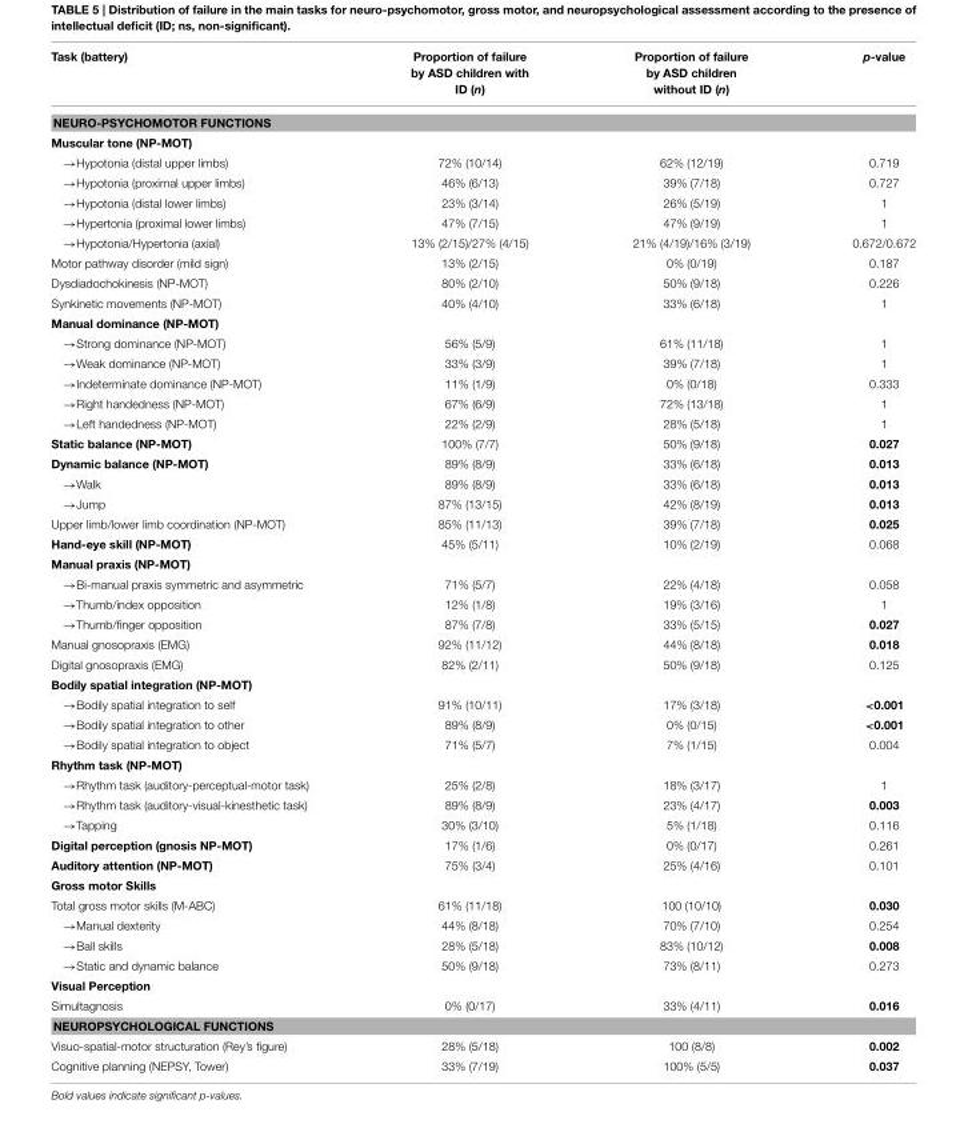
<table><thead><tr><td>Task (battery)</td><td>Proportion of failure by ASD children with ID (n)</td><td>Proportion of failure by ASD children without ID (n)</td><td>p-value</td></tr></thead><tbody><tr><td colspan="4">NEURO-PSYCHOMOTOR FUNCTIONS</td></tr><tr><td colspan="4">Muscular tone (NP-MOT)</td></tr><tr><td>→Hypotonia (distal upper limbs)</td><td>72% (10/14)</td><td>62% (12/19)</td><td>0.719</td></tr><tr><td>→Hypotonia (proximal upper limbs)</td><td>46% (6/13)</td><td>39% (7/18)</td><td>0.727</td></tr><tr><td>→Hypotonia (distal lower limbs)</td><td>23% (3/14)</td><td>26% (5/19)</td><td>1</td></tr><tr><td>→Hypertonia (proximal lower limbs)</td><td>47% (7/15)</td><td>47% (9/19)</td><td>1</td></tr><tr><td>→Hypotonia/Hypertonia (axial)</td><td>13% (2/15)/27% (4/15)</td><td>21% (4/19)/16% (3/19)</td><td>0.672/0.672</td></tr><tr><td>Motor pathway disorder (mild sign)</td><td>13% (2/15)</td><td>0% (0/19)</td><td>0.187</td></tr><tr><td>Dysdiadochokinesis (NP-MOT)</td><td>80% (2/10)</td><td>50% (9/18)</td><td>0.226</td></tr><tr><td>Synkinetic movements (NP-MOT)</td><td>40% (4/10)</td><td>33% (6/18)</td><td>1</td></tr><tr><td colspan="4">Manual dominance (NP-MOT)</td></tr><tr><td>→Strong dominance (NP-MOT)</td><td>56% (5/9)</td><td>61% (11/18)</td><td>1</td></tr><tr><td>→Weak dominance (NP-MOT)</td><td>33% (3/9)</td><td>39% (7/18)</td><td>1</td></tr><tr><td>→Indeterminate dominance (NP-MOT)</td><td>11% (1/9)</td><td>0% (0/18)</td><td>0.333</td></tr><tr><td>→Right handedness (NP-MOT)</td><td>67% (6/9)</td><td>72% (13/18)</td><td>1</td></tr><tr><td>→Left handedness (NP-MOT)</td><td>22% (2/9)</td><td>28% (5/18)</td><td>1</td></tr><tr><td>Static balance (NP-MOT)</td><td>100% (7/7)</td><td>50% (9/18)</td><td>0.027</td></tr><tr><td>Dynamic balance (NP-MOT)</td><td>89% (8/9)</td><td>33% (6/18)</td><td>0.013</td></tr><tr><td>→Walk</td><td>89% (8/9)</td><td>33% (6/18)</td><td>0.013</td></tr><tr><td>→Jump</td><td>87% (13/15)</td><td>42% (8/19)</td><td>0.013</td></tr><tr><td>Upper limb/lower limb coordination (NP-MOT)</td><td>85% (11/13)</td><td>39% (7/18)</td><td>0.025</td></tr><tr><td>Hand-eye skill (NP-MOT)</td><td>45% (5/11)</td><td>10% (2/19)</td><td>0.068</td></tr><tr><td colspan="4">Manual praxis (NP-MOT)</td></tr><tr><td>→Bi-manual praxis symmetric and asymmetric</td><td>71% (5/7)</td><td>22% (4/18)</td><td>0.058</td></tr><tr><td>→Thumb/index opposition</td><td>12% (1/8)</td><td>19% (3/16)</td><td>1</td></tr><tr><td>→Thumb/finger opposition</td><td>87% (7/8)</td><td>33% (5/15)</td><td>0.027</td></tr><tr><td>Manual gnosopraxis (EMG)</td><td>92% (11/12)</td><td>44% (8/18)</td><td>0.018</td></tr><tr><td>Digital gnosopraxis (EMG)</td><td>82% (2/11)</td><td>50% (9/18)</td><td>0.125</td></tr><tr><td colspan="4">Bodily spatial integration (NP-MOT)</td></tr><tr><td>→Bodily spatial integration to self</td><td>91% (10/11)</td><td>17% (3/18)</td><td>&lt;0.001</td></tr><tr><td>→Bodily spatial integration to other</td><td>89% (8/9)</td><td>0% (0/15)</td><td>&lt;0.001</td></tr><tr><td>→Bodily spatial integration to object</td><td>71% (5/7)</td><td>7% (1/15)</td><td>0.004</td></tr><tr><td colspan="4">Rhythm task (NP-MOT)</td></tr><tr><td>→Rhythm task (auditory-perceptual-motor task)</td><td>25% (2/8)</td><td>18% (3/17)</td><td>1</td></tr><tr><td>→Rhythm task (auditory-visual-kinesthetic task)</td><td>89% (8/9)</td><td>23% (4/17)</td><td>0.003</td></tr><tr><td>→Tapping</td><td>30% (3/10)</td><td>5% (1/18)</td><td>0.116</td></tr><tr><td>Digital perception (gnosis NP-MOT)</td><td>17% (1/6)</td><td>0% (0/17)</td><td>0.261</td></tr><tr><td>Auditory attention (NP-MOT)</td><td>75% (3/4)</td><td>25% (4/16)</td><td>0.101</td></tr><tr><td colspan="4">Gross motor Skills</td></tr><tr><td>Total gross motor skills (M-ABC)</td><td>61% (11/18)</td><td>100 (10/10)</td><td>0.030</td></tr><tr><td>→Manual dexterity</td><td>44% (8/18)</td><td>70% (7/10)</td><td>0.254</td></tr><tr><td>→Ball skills</td><td>28% (5/18)</td><td>83% (10/12)</td><td>0.008</td></tr><tr><td>→Static and dynamic balance</td><td>50% (9/18)</td><td>73% (8/11)</td><td>0.273</td></tr><tr><td colspan="4">Visual Perception</td></tr><tr><td>Simultagnosis</td><td>0% (0/17)</td><td>33% (4/11)</td><td>0.016</td></tr><tr><td colspan="4">NEUROPSYCHOLOGICAL FUNCTIONS</td></tr><tr><td>Visuo-spatial-motor structuration (Rey’s figure)</td><td>28% (5/18)</td><td>100 (8/8)</td><td>0.002</td></tr><tr><td>Cognitive planning (NEPSY, Tower)</td><td>33% (7/19)</td><td>100% (5/5)</td><td>0.037</td></tr></tbody></table>